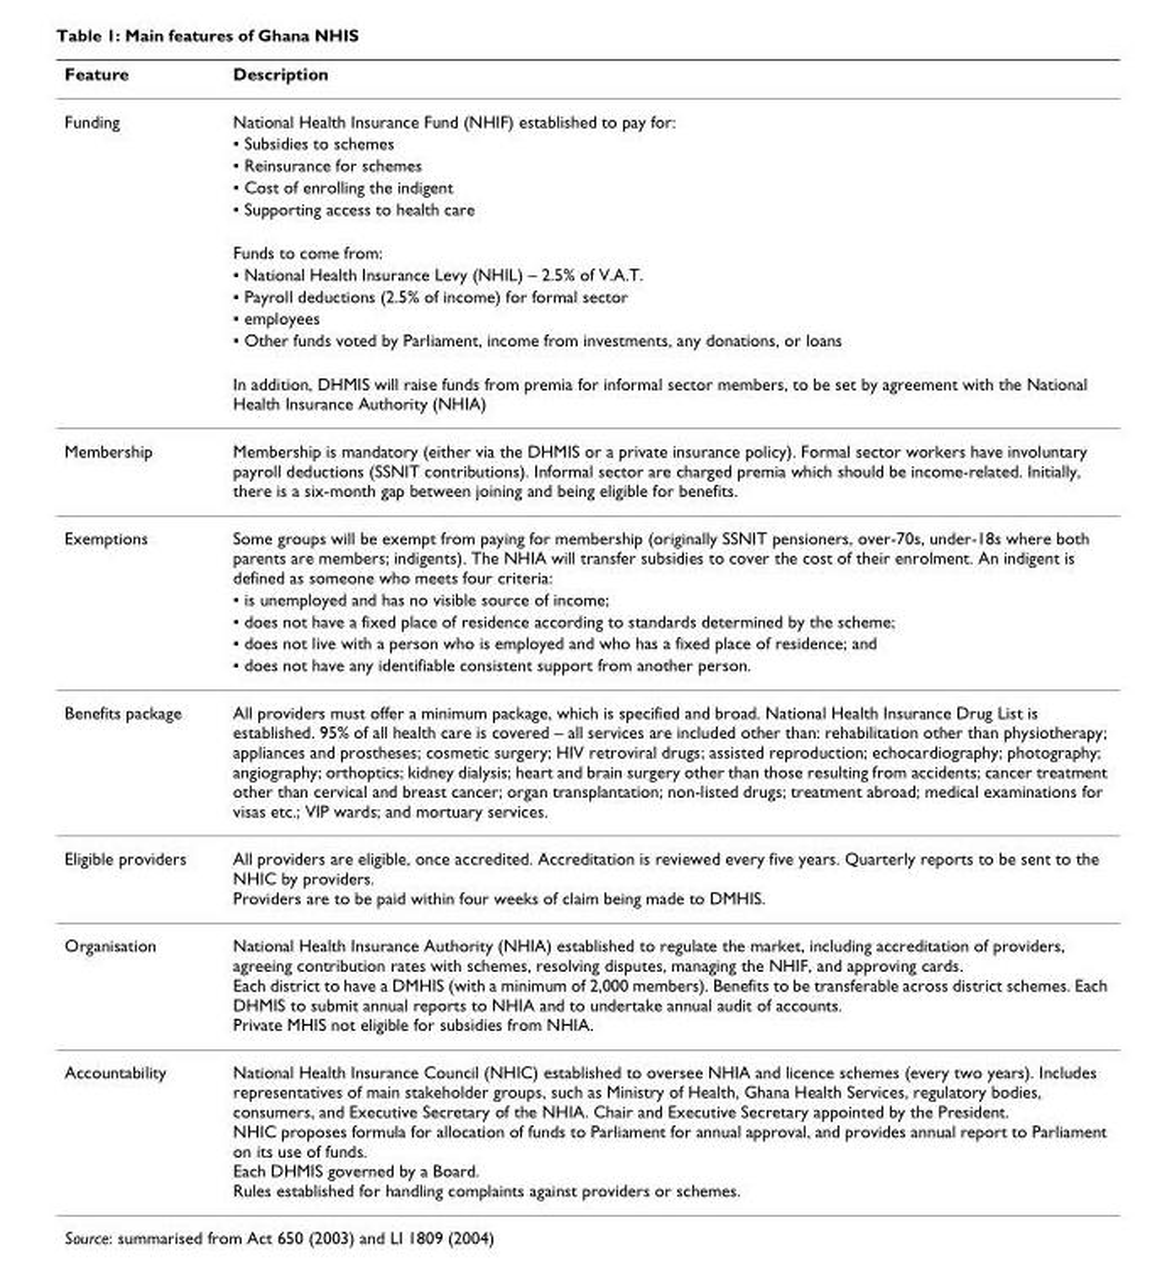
<table><thead><tr><td>Feature</td><td>Description</td></tr></thead><tbody><tr><td rowspan="11">Funding</td><td>National Health Insurance Fund (NHIF) established to pay for:</td></tr><tr><td>▪ Subsidies to schemes</td></tr><tr><td>▪ Reinsurance for schemes</td></tr><tr><td>▪ Cost of enrolling the indigent</td></tr><tr><td>▪ Supporting access to health care</td></tr><tr><td>Funds to come from:</td></tr><tr><td>▪ National Health Insurance Levy (NHIL) – 2.5% of V.A.T.</td></tr><tr><td>▪ Payroll deductions (2.5% of income) for formal sector</td></tr><tr><td>▪ employees</td></tr><tr><td>▪ Other funds voted by Parliament, income from investments, any donations, or loans</td></tr><tr><td>In addition, DHMIS will raise funds from premia for informal sector members, to be set by agreement with the National Health Insurance Authority (NHIA)</td></tr><tr><td>Membership</td><td>Membership is mandatory (either via the DHMIS or a private insurance policy). Formal sector workers have involuntary payroll deductions (SSNIT contributions). Informal sector are charged premia which should be income-related. Initially, there is a six-month gap between joining and being eligible for benefits.</td></tr><tr><td rowspan="5">Exemptions</td><td>Some groups will be exempt from paying for membership (originally SSNIT pensioners, over-70s, under-18s where both parents are members; indigents). The NHIA will transfer subsidies to cover the cost of their enrolment. An indigent is defined as someone who meets four criteria:</td></tr><tr><td>▪ is unemployed and has no visible source of income;</td></tr><tr><td>▪ does not have a fixed place of residence according to standards determined by the scheme;</td></tr><tr><td>▪ does not live with a person who is employed and who has a fixed place of residence; and</td></tr><tr><td>▪ does not have any identifiable consistent support from another person.</td></tr><tr><td>Benefits package</td><td>All providers must offer a minimum package, which is specified and broad. National Health Insurance Drug List is established. 95% of all health care is covered – all services are included other than: rehabilitation other than physiotherapy; appliances and prostheses; cosmetic surgery; HIV retroviral drugs; assisted reproduction; echocardiography; photography; angiography; orthoptics; kidney dialysis; heart and brain surgery other than those resulting from accidents; cancer treatment other than cervical and breast cancer; organ transplantation; non-listed drugs; treatment abroad; medical examinations for visas etc.; VIP wards; and mortuary services.</td></tr><tr><td>Eligible providers</td><td>All providers are eligible, once accredited. Accreditation is reviewed every five years. Quarterly reports to be sent to the NHIC by providers. Providers are to be paid within four weeks of claim being made to DMHIS.</td></tr><tr><td>Organisation</td><td>National Health Insurance Authority (NHIA) established to regulate the market, including accreditation of providers, agreeing contribution rates with schemes, resolving disputes, managing the NHIF, and approving cards. Each district to have a DMHIS (with a minimum of 2,000 members). Benefits to be transferable across district schemes. Each DHMIS to submit annual reports to NHIA and to undertake annual audit of accounts. Private MHIS not eligible for subsidies from NHIA.</td></tr><tr><td>Accountability</td><td>National Health Insurance Council (NHIC) established to oversee NHIA and licence schemes (every two years). Includes representatives of main stakeholder groups, such as Ministry of Health, Ghana Health Services, regulatory bodies, consumers, and Executive Secretary of the NHIA. Chair and Executive Secretary appointed by the President. NHIC proposes formula for allocation of funds to Parliament for annual approval, and provides annual report to Parliament on its use of funds. Each DHMIS governed by a Board. Rules established for handling complaints against providers or schemes.</td></tr></tbody></table>